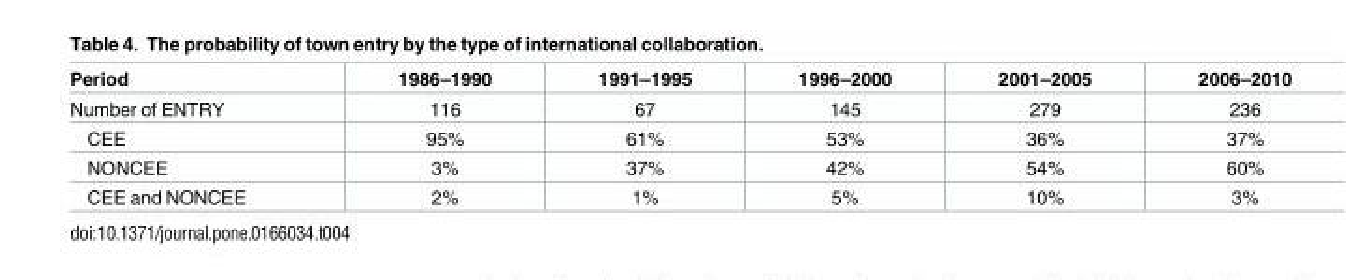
<table><thead><tr><td>Period</td><td>1986–1990</td><td>1991–1995</td><td>1996–2000</td><td>2001–2005</td><td>2006–2010</td></tr></thead><tbody><tr><td>Number of ENTRY</td><td>116</td><td>67</td><td>145</td><td>279</td><td>236</td></tr><tr><td>CEE</td><td>95%</td><td>61%</td><td>53%</td><td>36%</td><td>37%</td></tr><tr><td>NONCEE</td><td>3%</td><td>37%</td><td>42%</td><td>54%</td><td>60%</td></tr><tr><td>CEE and NONCEE</td><td>2%</td><td>1%</td><td>5%</td><td>10%</td><td>3%</td></tr></tbody></table>